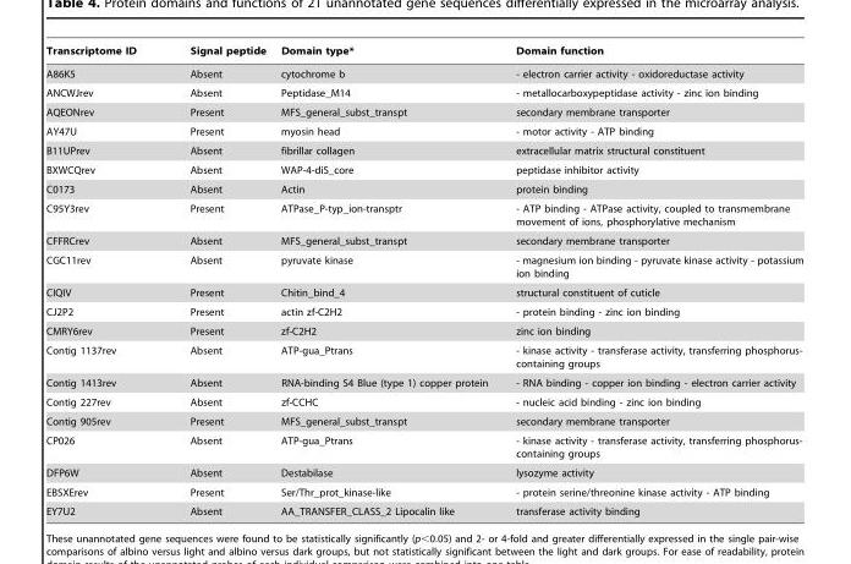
<table><thead><tr><td>Transcriptome ID</td><td>Signal peptide</td><td>Domain type*</td><td>Domain function</td></tr></thead><tbody><tr><td>A86K5</td><td>Absent</td><td>cytochrome b</td><td>- electron carrier activity - oxidoreductase activity</td></tr><tr><td>ANCWJrev</td><td>Absent</td><td>Peptidase_M14</td><td>- metallocarboxypeptidase activity - zinc ion binding</td></tr><tr><td>AQEONrev</td><td>Present</td><td>MFS_general_subst_transpt</td><td>secondary membrane transporter</td></tr><tr><td>AY47U</td><td>Present</td><td>myosin head</td><td>- motor activity - ATP binding</td></tr><tr><td>B11UPrev</td><td>Absent</td><td>fibrillar collagen</td><td>extracellular matrix structural constituent</td></tr><tr><td>BXWCQrev</td><td>Absent</td><td>WAP-4-diS_core</td><td>peptidase inhibitor activity</td></tr><tr><td>C0173</td><td>Absent</td><td>Actin</td><td>protein binding</td></tr><tr><td>C95Y3rev</td><td>Present</td><td>ATPase_P-typ_ion-transptr</td><td>- ATP binding - ATPase activity, coupled to transmembrane movement of ions, phosphorylative mechanism</td></tr><tr><td>CFFRCrev</td><td>Absent</td><td>MFS_general_subst_transpt</td><td>secondary membrane transporter</td></tr><tr><td>CGC11rev</td><td>Absent</td><td>pyruvate kinase</td><td>- magnesium ion binding - pyruvate kinase activity - potassium ion binding</td></tr><tr><td>CIQIV</td><td>Present</td><td>Chitin_bind_4</td><td>structural constituent of cuticle</td></tr><tr><td>CJ2P2</td><td>Present</td><td>actin zf-C2H2</td><td>- protein binding - zinc ion binding</td></tr><tr><td>CMRY6rev</td><td>Present</td><td>zf-C2H2</td><td>zinc ion binding</td></tr><tr><td>Contig 1137rev</td><td>Absent</td><td>ATP-gua_Ptrans</td><td>- kinase activity - transferase activity, transferring phosphorus- containing groups</td></tr><tr><td>Contig 1413rev</td><td>Absent</td><td>RNA-binding S4 Blue (type 1) copper protein</td><td>- RNA binding - copper ion binding - electron carrier activity</td></tr><tr><td>Contig 227rev</td><td>Absent</td><td>zf-CCHC</td><td>- nucleic acid binding - zinc ion binding</td></tr><tr><td>Contig 905rev</td><td>Present</td><td>MFS_general_subst_transpt</td><td>secondary membrane transporter</td></tr><tr><td>CP026</td><td>Absent</td><td>ATP-gua_Ptrans</td><td>- kinase activity - transferase activity, transferring phosphorus- containing groups</td></tr><tr><td>DFP6W</td><td>Absent</td><td>Destabilase</td><td>lysozyme activity</td></tr><tr><td>EBSXErev</td><td>Present</td><td>Ser/Thr_prot_kinase-like</td><td>- protein serine/threonine kinase activity - ATP binding</td></tr><tr><td>EY7U2</td><td>Absent</td><td>AA_TRANSFER_CLASS_2 Lipocalin like</td><td>transferase activity binding</td></tr></tbody></table>